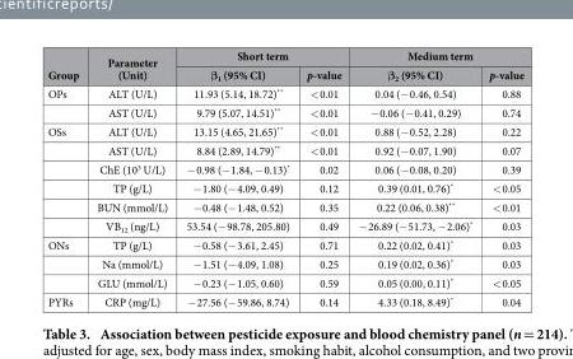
<table><thead><tr><td rowspan="2">Group</td><td rowspan="2">Parameter (Unit)</td><td colspan="2">Short term</td><td colspan="2">Medium term</td></tr><tr><td>β<sub>1</sub> (95% CI)</td><td>p-value</td><td>β<sub>2</sub> (95% CI)</td><td>p-value</td></tr></thead><tbody><tr><td rowspan="2">OPs</td><td>ALT (U/L)</td><td>11.93 (5.14, 18.72)**</td><td>&lt; 0.01</td><td>0.04 (− 0.46, 0.54)</td><td>0.88</td></tr><tr><td>AST (U/L)</td><td>9.79 (5.07, 14.51)**</td><td>&lt; 0.01</td><td>− 0.06 (− 0.41, 0.29)</td><td>0.74</td></tr><tr><td rowspan="6">OSs</td><td>ALT (U/L)</td><td>13.15 (4.65, 21.65)**</td><td>&lt; 0.01</td><td>0.88 (− 0.52, 2.28)</td><td>0.22</td></tr><tr><td>AST (U/L)</td><td>8.84 (2.89, 14.79)**</td><td>&lt; 0.01</td><td>0.92 (− 0.07, 1.90)</td><td>0.07</td></tr><tr><td>ChE (10<sup>3</sup> U/L)</td><td>− 0.98 (− 1.84, − 0.13)*</td><td>0.02</td><td>0.06 (− 0.08, 0.20)</td><td>0.39</td></tr><tr><td>TP (g/L)</td><td>− 1.80 (− 4.09, 0.49)</td><td>0.12</td><td>0.39 (0.01, 0.76)*</td><td>&lt; 0.05</td></tr><tr><td>BUN (mmol/L)</td><td>− 0.48 (− 1.48, 0.52)</td><td>0.35</td><td>0.22 (0.06, 0.38)**</td><td>&lt; 0.01</td></tr><tr><td>VB<sub>12</sub> (ng/L)</td><td>53.54 (− 98.78, 205.80)</td><td>0.49</td><td>− 26.89 (− 51.73, − 2.06)*</td><td>0.03</td></tr><tr><td rowspan="3">ONs</td><td>TP (g/L)</td><td>− 0.58 (− 3.61, 2.45)</td><td>0.71</td><td>0.22 (0.02, 0.41)*</td><td>0.03</td></tr><tr><td>Na (mmol/L)</td><td>− 1.51 (− 4.09, 1.08)</td><td>0.25</td><td>0.19 (0.02, 0.36)*</td><td>0.03</td></tr><tr><td>GLU (mmol/L)</td><td>− 0.23 (− 1.05, 0.60)</td><td>0.59</td><td>0.05 (0.00, 0.11)*</td><td>&lt; 0.05</td></tr><tr><td>PYRs</td><td>CRP (mg/L)</td><td>− 27.56 (− 59.86, 8.74)</td><td>0.14</td><td>4.33 (0.18, 8.49)*</td><td>0.04</td></tr></tbody></table>